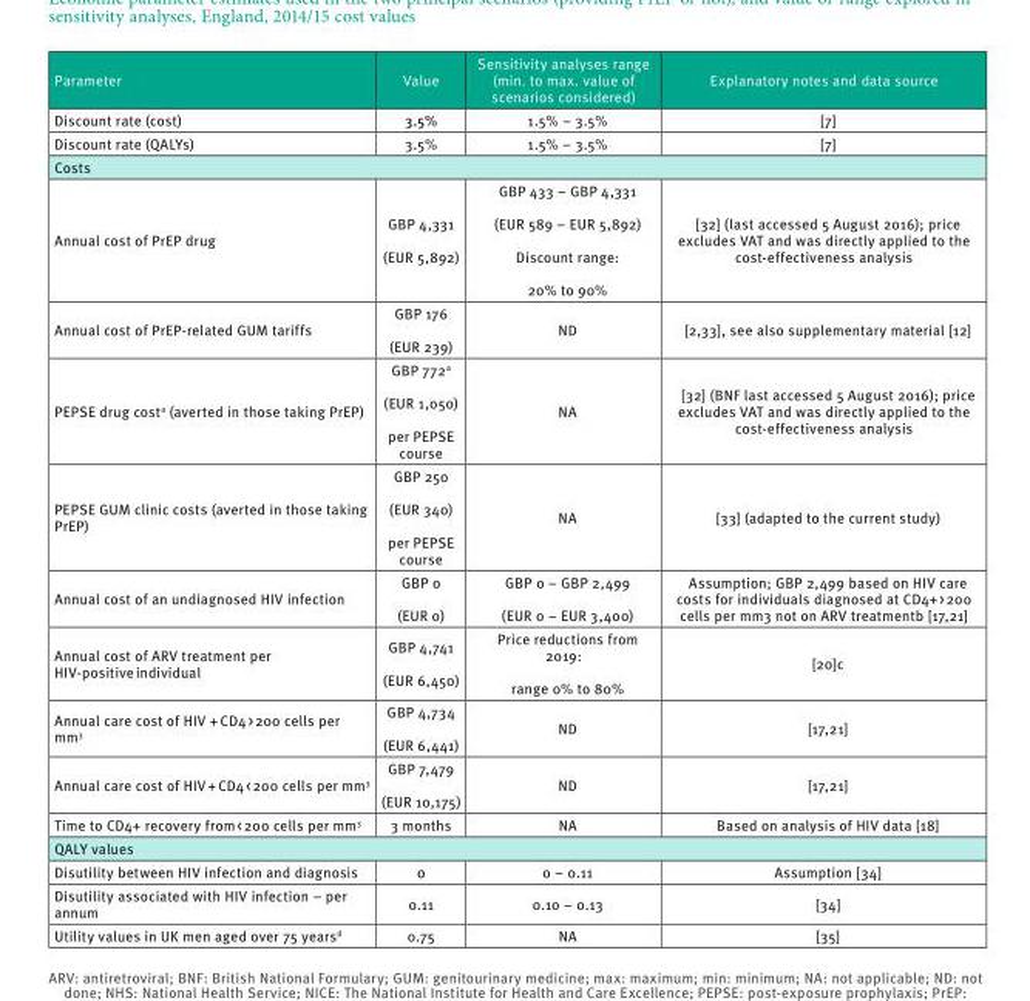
<table><thead><tr><td>Parameter</td><td>Value</td><td>Sensitivity analyses range (min. to max. value of scenarios considered)</td><td>Explanatory notes and data source</td></tr></thead><tbody><tr><td>Discount rate (cost)</td><td>3.5%</td><td>1.5% – 3.5%</td><td>[7]</td></tr><tr><td>Discount rate (QALYs)</td><td>3.5%</td><td>1.5% – 3.5%</td><td>[7]</td></tr><tr><td colspan="4">Costs</td></tr><tr><td>Annual cost of PrEP drug</td><td>GBP 4,331 (EUR 5,892)</td><td>GBP 433 – GBP 4,331 (EUR 589 – EUR 5,892) Discount range: 20% to 90%</td><td>[32] (last accessed 5 August 2016); price excludes VAT and was directly applied to the cost-effectiveness analysis</td></tr><tr><td>Annual cost of PrEP-related GUM tariffs</td><td>GBP 176 (EUR 239)</td><td>ND</td><td>[2,33], see also supplementary material [12]</td></tr><tr><td>PEPSE drug cost<sup>a</sup> (averted in those taking PrEP)</td><td>GBP 772<sup>a</sup> (EUR 1,050) per PEPSE course</td><td>NA</td><td>[32] (BNF last accessed 5 August 2016); price excludes VAT and was directly applied to the cost-effectiveness analysis</td></tr><tr><td>PEPSE GUM clinic costs (averted in those taking PrEP)</td><td>GBP 250 (EUR 340) per PEPSE course</td><td>NA</td><td>[33] (adapted to the current study)</td></tr><tr><td>Annual cost of an undiagnosed HIV infection</td><td>GBP 0 (EUR 0)</td><td>GBP 0 – GBP 2,499 (EUR 0 – EUR 3,400)</td><td>Assumption; GBP 2,499 based on HIV care costs for individuals diagnosed at CD4+ &gt; 200 cells per mm<sup>3</sup> not on ARV treatment<sup>b</sup> [17,21]</td></tr><tr><td>Annual cost of ARV treatment per HIV-positive individual</td><td>GBP 4,741 (EUR 6,450)</td><td>Price reductions from 2019: range 0% to 80%</td><td>[20]<sup>c</sup></td></tr><tr><td>Annual care cost of HIV + CD4 &gt; 200 cells per mm<sup>3</sup></td><td>GBP 4,734 (EUR 6,441)</td><td>ND</td><td>[17,21]</td></tr><tr><td>Annual care cost of HIV + CD4 &lt; 200 cells per mm<sup>3</sup></td><td>GBP 7,479 (EUR 10,175)</td><td>ND</td><td>[17,21]</td></tr><tr><td>Time to CD4+ recovery from &lt; 200 cells per mm<sup>3</sup></td><td>3 months</td><td>NA</td><td>Based on analysis of HIV data [18]</td></tr><tr><td colspan="4">QALY values</td></tr><tr><td>Disutility between HIV infection and diagnosis</td><td>0</td><td>0 – 0.11</td><td>Assumption [34]</td></tr><tr><td>Disutility associated with HIV infection – per annum</td><td>0.11</td><td>0.10 – 0.13</td><td>[34]</td></tr><tr><td>Utility values in UK men aged over 75 years<sup>d</sup></td><td>0.75</td><td>NA</td><td>[35]</td></tr></tbody></table>